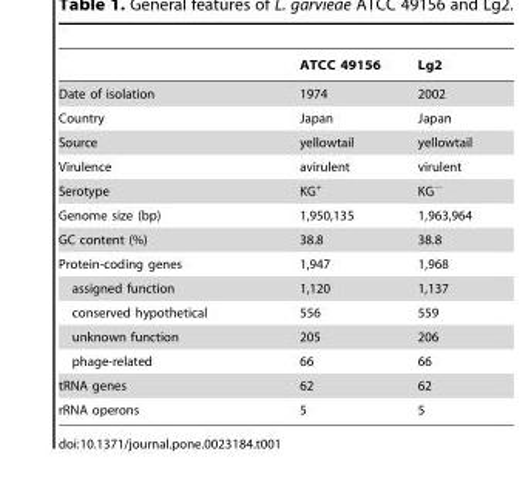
<table><thead><tr><td></td><td>ATCC 49156</td><td>Lg2</td></tr></thead><tbody><tr><td>Date of isolation</td><td>1974</td><td>2002</td></tr><tr><td>Country</td><td>Japan</td><td>Japan</td></tr><tr><td>Source</td><td>yellowtail</td><td>yellowtail</td></tr><tr><td>Virulence</td><td>avirulent</td><td>virulent</td></tr><tr><td>Serotype</td><td>KG<sup>+</sup></td><td>KG<sup>−</sup></td></tr><tr><td>Genome size (bp)</td><td>1,950,135</td><td>1,963,964</td></tr><tr><td>GC content (%)</td><td>38.8</td><td>38.8</td></tr><tr><td>Protein-coding genes</td><td>1,947</td><td>1,968</td></tr><tr><td>assigned function</td><td>1,120</td><td>1,137</td></tr><tr><td>conserved hypothetical</td><td>556</td><td>559</td></tr><tr><td>unknown function</td><td>205</td><td>206</td></tr><tr><td>phage-related</td><td>66</td><td>66</td></tr><tr><td>tRNA genes</td><td>62</td><td>62</td></tr><tr><td>rRNA operons</td><td>5</td><td>5</td></tr></tbody></table>